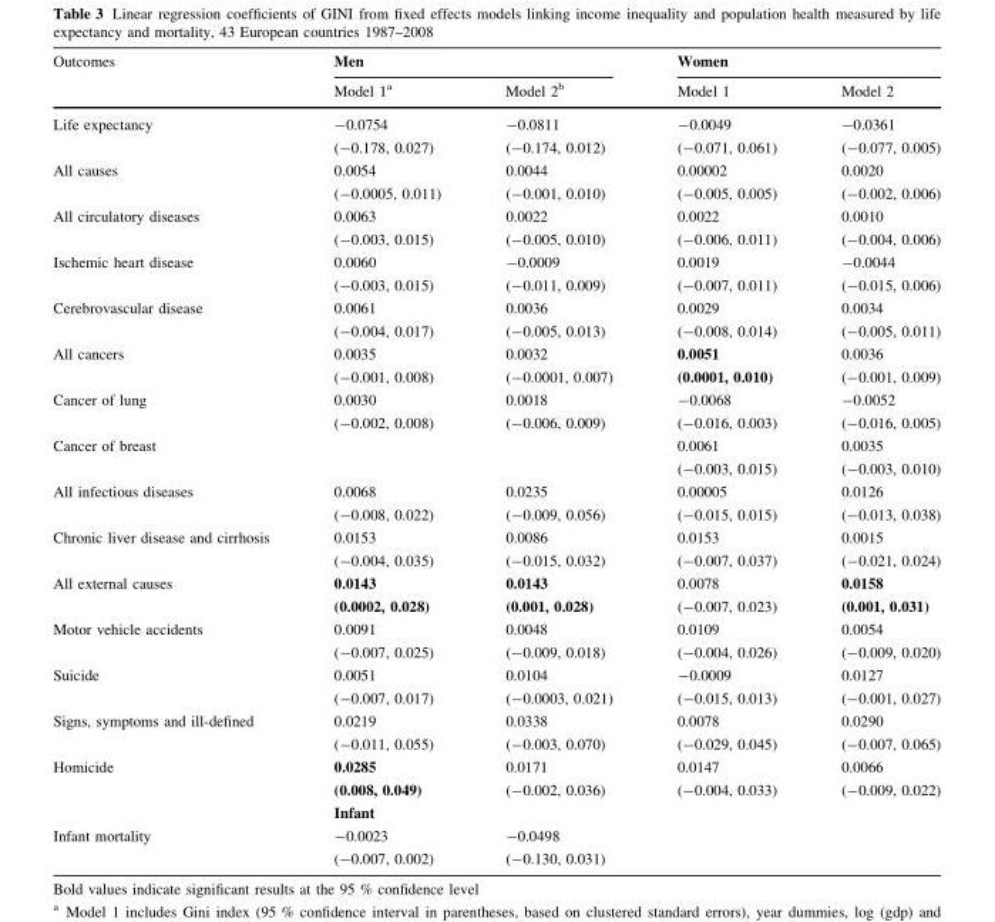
<table><thead><tr><td rowspan="2">Outcomes</td><td colspan="2">Men</td><td colspan="2">Women</td></tr><tr><td>Model 1<sup>a</sup></td><td>Model 2<sup>b</sup></td><td>Model 1</td><td>Model 2</td></tr></thead><tbody><tr><td>Life expectancy</td><td>-0.0754 (-0.178, 0.027)</td><td>-0.0811 (-0.174, 0.012)</td><td>-0.0049 (-0.071, 0.061)</td><td>-0.0361 (-0.077, 0.005)</td></tr><tr><td>All causes</td><td>0.0054 (-0.0005, 0.011)</td><td>0.0044 (-0.001, 0.010)</td><td>0.00002 (-0.005, 0.005)</td><td>0.0020 (-0.002, 0.006)</td></tr><tr><td>All circulatory diseases</td><td>0.0063 (-0.003, 0.015)</td><td>0.0022 (-0.005, 0.010)</td><td>0.0022 (-0.006, 0.011)</td><td>0.0010 (-0.004, 0.006)</td></tr><tr><td>Ischemic heart disease</td><td>0.0060 (-0.003, 0.015)</td><td>-0.0009 (-0.011, 0.009)</td><td>0.0019 (-0.007, 0.011)</td><td>-0.0044 (-0.015, 0.006)</td></tr><tr><td>Cerebrovascular disease</td><td>0.0061 (-0.004, 0.017)</td><td>0.0036 (-0.005, 0.013)</td><td>0.0029 (-0.008, 0.014)</td><td>0.0034 (-0.005, 0.011)</td></tr><tr><td>All cancers</td><td>0.0035 (-0.001, 0.008)</td><td>0.0032 (-0.0001, 0.007)</td><td>0.0051 (0.0001, 0.010)</td><td>0.0036 (-0.001, 0.009)</td></tr><tr><td>Cancer of lung</td><td>0.0030 (-0.002, 0.008)</td><td>0.0018 (-0.006, 0.009)</td><td>-0.0068 (-0.016, 0.003)</td><td>-0.0052 (-0.016, 0.005)</td></tr><tr><td>Cancer of breast</td><td></td><td></td><td>0.0061 (-0.003, 0.015)</td><td>0.0035 (-0.003, 0.010)</td></tr><tr><td>All infectious diseases</td><td>0.0068 (-0.008, 0.022)</td><td>0.0235 (-0.009, 0.056)</td><td>0.00005 (-0.015, 0.015)</td><td>0.0126 (-0.013, 0.038)</td></tr><tr><td>Chronic liver disease and cirrhosis</td><td>0.0153 (-0.004, 0.035)</td><td>0.0086 (-0.015, 0.032)</td><td>0.0153 (-0.007, 0.037)</td><td>0.0015 (-0.021, 0.024)</td></tr><tr><td>All external causes</td><td>0.0143 (0.0002, 0.028)</td><td>0.0143 (0.001, 0.028)</td><td>0.0078 (-0.007, 0.023)</td><td>0.0158 (0.001, 0.031)</td></tr><tr><td>Motor vehicle accidents</td><td>0.0091 (-0.007, 0.025)</td><td>0.0048 (-0.009, 0.018)</td><td>0.0109 (-0.004, 0.026)</td><td>0.0054 (-0.009, 0.020)</td></tr><tr><td>Suicide</td><td>0.0051 (-0.007, 0.017)</td><td>0.0104 (-0.0003, 0.021)</td><td>-0.0009 (-0.015, 0.013)</td><td>0.0127 (-0.001, 0.027)</td></tr><tr><td>Signs, symptoms and ill-defined</td><td>0.0219 (-0.011, 0.055)</td><td>0.0338 (-0.003, 0.070)</td><td>0.0078 (-0.029, 0.045)</td><td>0.0290 (-0.007, 0.065)</td></tr><tr><td rowspan="2">Homicide</td><td>0.0285 (0.008, 0.049)</td><td>0.0171 (-0.002, 0.036)</td><td>0.0147 (-0.004, 0.033)</td><td>0.0066 (-0.009, 0.022)</td></tr><tr><td colspan="4">Infant</td></tr><tr><td>Infant mortality</td><td>-0.0023 (-0.007, 0.002)</td><td>-0.0498 (-0.130, 0.031)</td><td></td><td></td></tr></tbody></table>